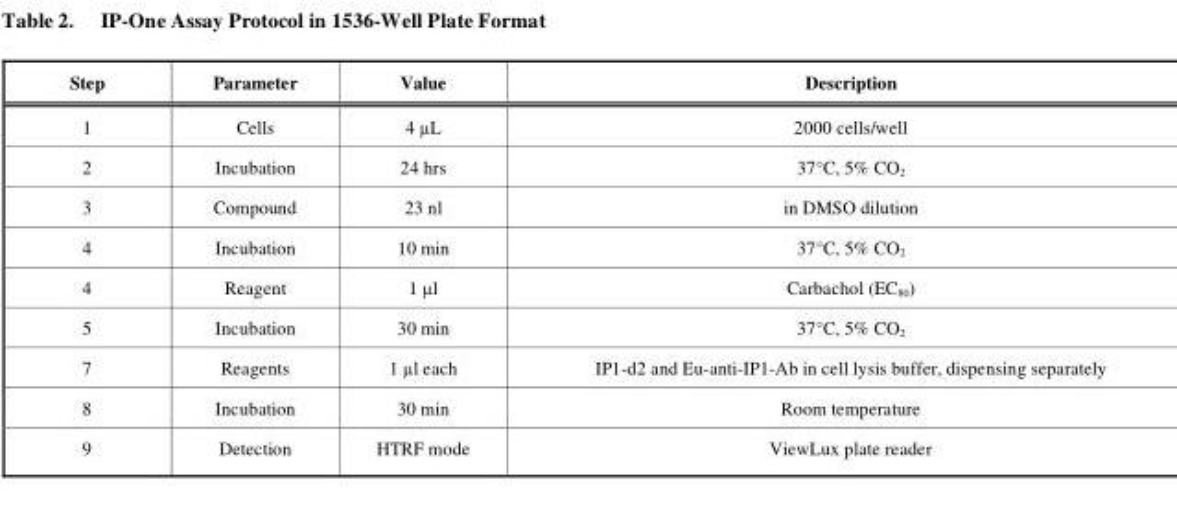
<table><thead><tr><td>Step</td><td>Parameter</td><td>Value</td><td>Description</td></tr></thead><tbody><tr><td>1</td><td>Cells</td><td>4 μL</td><td>2000 cells/well</td></tr><tr><td>2</td><td>Incubation</td><td>24 hrs</td><td>37°C, 5% CO<sub>2</sub></td></tr><tr><td>3</td><td>Compound</td><td>23 nl</td><td>in DMSO dilution</td></tr><tr><td>4</td><td>Incubation</td><td>10 min</td><td>37°C, 5% CO<sub>2</sub></td></tr><tr><td>4</td><td>Reagent</td><td>1 μl</td><td>Carbachol (EC<sub>80</sub>)</td></tr><tr><td>5</td><td>Incubation</td><td>30 min</td><td>37°C, 5% CO<sub>2</sub></td></tr><tr><td>7</td><td>Reagents</td><td>1 μl each</td><td>IP1-d2 and Eu-anti-IP1-Ab in cell lysis buffer, dispensing separately</td></tr><tr><td>8</td><td>Incubation</td><td>30 min</td><td>Room temperature</td></tr><tr><td>9</td><td>Detection</td><td>HTRF mode</td><td>ViewLux plate reader</td></tr></tbody></table>